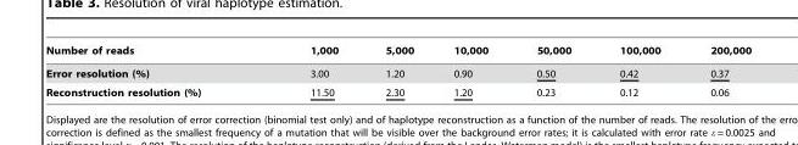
<table><thead><tr><td>Number of reads</td><td>1,000</td><td>5,000</td><td>10,000</td><td>50,000</td><td>100,000</td><td>200,000</td></tr></thead><tbody><tr><td>Error resolution (%)</td><td>3.00</td><td>1.20</td><td>0.90</td><td>0.50</td><td>0.42</td><td>0.37</td></tr><tr><td>Reconstruction resolution (%)</td><td>11.50</td><td>2.30</td><td>1.20</td><td>0.23</td><td>0.12</td><td>0.06</td></tr></tbody></table>